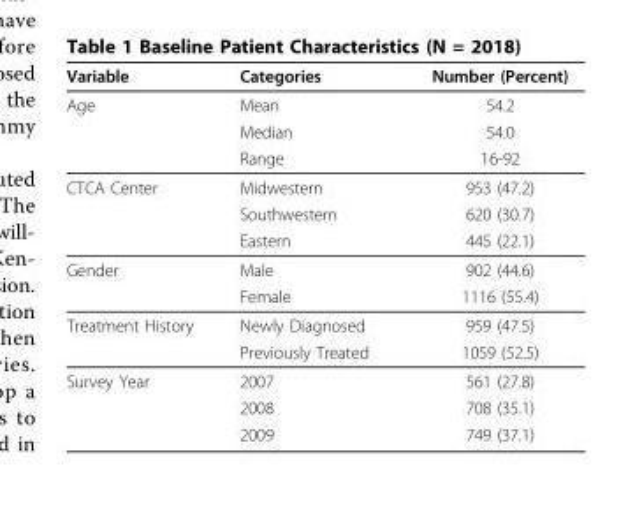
<table><thead><tr><td>Variable</td><td>Categories</td><td>Number (Percent)</td></tr></thead><tbody><tr><td rowspan="3">Age</td><td>Mean</td><td>54.2</td></tr><tr><td>Median</td><td>54.0</td></tr><tr><td>Range</td><td>16-92</td></tr><tr><td rowspan="3">CTCA Center</td><td>Midwestern</td><td>953 (47.2)</td></tr><tr><td>Southwestern</td><td>620 (30.7)</td></tr><tr><td>Eastern</td><td>445 (22.1)</td></tr><tr><td rowspan="2">Gender</td><td>Male</td><td>902 (44.6)</td></tr><tr><td>Female</td><td>1116 (55.4)</td></tr><tr><td rowspan="2">Treatment History</td><td>Newly Diagnosed</td><td>959 (47.5)</td></tr><tr><td>Previously Treated</td><td>1059 (52.5)</td></tr><tr><td rowspan="3">Survey Year</td><td>2007</td><td>561 (27.8)</td></tr><tr><td>2008</td><td>708 (35.1)</td></tr><tr><td>2009</td><td>749 (37.1)</td></tr></tbody></table>